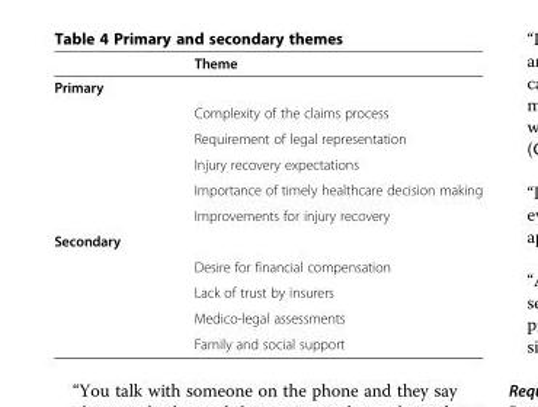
<table><thead><tr><td></td><td>Theme</td></tr></thead><tbody><tr><td colspan="2">Primary</td></tr><tr><td></td><td>Complexity of the claims process</td></tr><tr><td></td><td>Requirement of legal representation</td></tr><tr><td></td><td>Injury recovery expectations</td></tr><tr><td></td><td>Importance of timely healthcare decision making</td></tr><tr><td></td><td>Improvements for injury recovery</td></tr><tr><td colspan="2">Secondary</td></tr><tr><td></td><td>Desire for financial compensation</td></tr><tr><td></td><td>Lack of trust by insurers</td></tr><tr><td></td><td>Medico-legal assessments</td></tr><tr><td></td><td>Family and social support</td></tr></tbody></table>